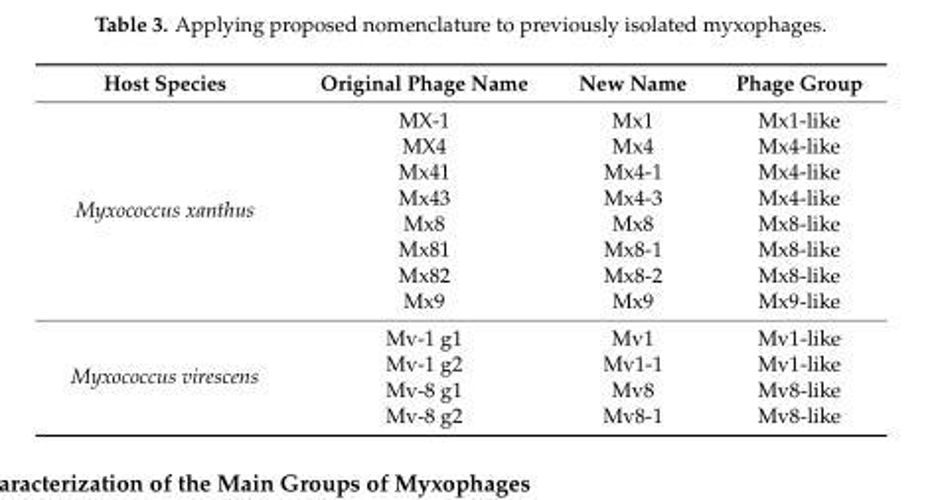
<table><thead><tr><td>Host Species</td><td>Original Phage Name</td><td>New Name</td><td>Phage Group</td></tr></thead><tbody><tr><td rowspan="8">Myxococcus xanthus</td><td>MX-1</td><td>Mx1</td><td>Mx1-like</td></tr><tr><td>MX4</td><td>Mx4</td><td>Mx4-like</td></tr><tr><td>Mx41</td><td>Mx4-1</td><td>Mx4-like</td></tr><tr><td>Mx43</td><td>Mx4-3</td><td>Mx4-like</td></tr><tr><td>Mx8</td><td>Mx8</td><td>Mx8-like</td></tr><tr><td>Mx81</td><td>Mx8-1</td><td>Mx8-like</td></tr><tr><td>Mx82</td><td>Mx8-2</td><td>Mx8-like</td></tr><tr><td>Mx9</td><td>Mx9</td><td>Mx9-like</td></tr><tr><td rowspan="4">Myxococcus virescens</td><td>Mv-1 g1</td><td>Mv1</td><td>Mv1-like</td></tr><tr><td>Mv-1 g2</td><td>Mv1-1</td><td>Mv1-like</td></tr><tr><td>Mv-8 g1</td><td>Mv8</td><td>Mv8-like</td></tr><tr><td>Mv-8 g2</td><td>Mv8-1</td><td>Mv8-like</td></tr></tbody></table>